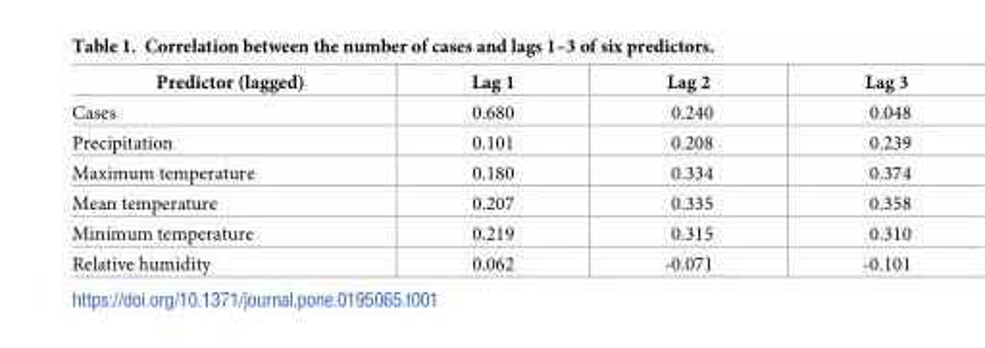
<table><thead><tr><td>Predictor (lagged)</td><td>Lag 1</td><td>Lag 2</td><td>Lag 3</td></tr></thead><tbody><tr><td>Cases</td><td>0.680</td><td>0.240</td><td>0.048</td></tr><tr><td>Precipitation</td><td>0.101</td><td>0.208</td><td>0.239</td></tr><tr><td>Maximum temperature</td><td>0.180</td><td>0.334</td><td>0.374</td></tr><tr><td>Mean temperature</td><td>0.207</td><td>0.335</td><td>0.358</td></tr><tr><td>Minimum temperature</td><td>0.219</td><td>0.315</td><td>0.310</td></tr><tr><td>Relative humidity</td><td>0.062</td><td>-0.071</td><td>-0.101</td></tr></tbody></table>